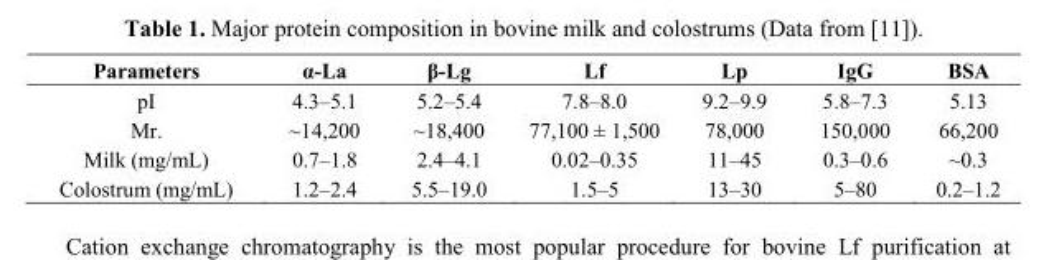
<table><thead><tr><td>Parameters</td><td>α-La</td><td>β-Lg</td><td>Lf</td><td>Lp</td><td>IgG</td><td>BSA</td></tr></thead><tbody><tr><td>pI</td><td>4.3–5.1</td><td>5.2–5.4</td><td>7.8–8.0</td><td>9.2–9.9</td><td>5.8–7.3</td><td>5.13</td></tr><tr><td>Mr.</td><td>~14,200</td><td>~18,400</td><td>77,100 ± 1,500</td><td>78,000</td><td>150,000</td><td>66,200</td></tr><tr><td>Milk (mg/mL)</td><td>0.7–1.8</td><td>2.4–4.1</td><td>0.02–0.35</td><td>11–45</td><td>0.3–0.6</td><td>~0.3</td></tr><tr><td>Colostrum (mg/mL)</td><td>1.2–2.4</td><td>5.5–19.0</td><td>1.5–5</td><td>13–30</td><td>5–80</td><td>0.2–1.2</td></tr></tbody></table>